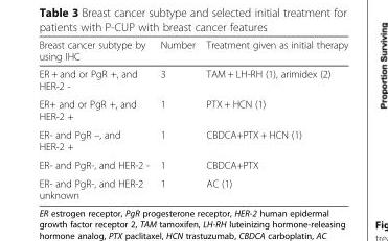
<table><thead><tr><td>Breast cancer subtype by using IHC</td><td>Number</td><td>Treatment given as initial therapy</td></tr></thead><tbody><tr><td>ER + and or PgR +, and HER-2 -</td><td>3</td><td>TAM + LH-RH (1), arimidex (2)</td></tr><tr><td>ER+ and or PgR +, and HER-2 +</td><td>1</td><td>PTX + HCN (1)</td></tr><tr><td>ER- and PgR –, and HER-2 +</td><td>1</td><td>CBDCA+PTX + HCN (1)</td></tr><tr><td>ER- and PgR-, and HER-2 -</td><td>1</td><td>CBDCA+PTX</td></tr><tr><td>ER- and PgR-, and HER-2 unknown</td><td>1</td><td>AC (1)</td></tr></tbody></table>